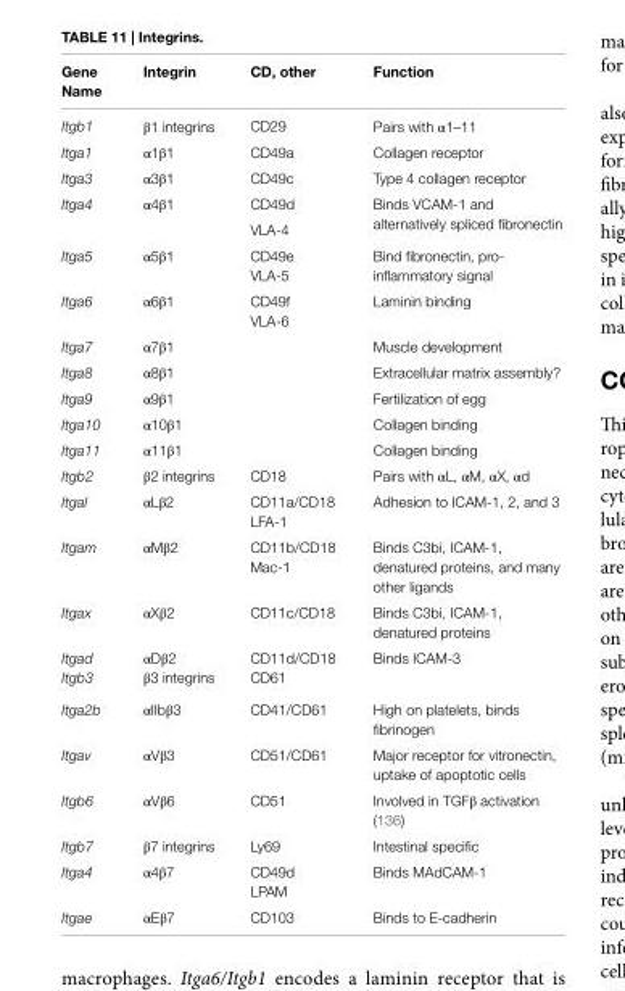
<table><thead><tr><td>Gene Name</td><td>integrin</td><td>CD, other</td><td>Function</td></tr></thead><tbody><tr><td>Itgb1</td><td>β1 integrins</td><td>CD29</td><td>Pairs with α1–11</td></tr><tr><td>Itga1</td><td>α1β1</td><td>CD49a</td><td>Collagen receptor</td></tr><tr><td>Itga3</td><td>α3β1</td><td>CD49c</td><td>Type 4 collagen receptor</td></tr><tr><td rowspan="2">Itga4</td><td rowspan="2">α4β1</td><td>CD49d</td><td rowspan="2">Binds VCAM-1 and alternatively spliced fibronectin</td></tr><tr><td>VLA-4</td></tr><tr><td rowspan="2">Itga5</td><td rowspan="2">α5β1</td><td>CD49e</td><td rowspan="2">Bind fibronectin, pro- inflammatory signal</td></tr><tr><td>VLA-5</td></tr><tr><td rowspan="2">Itga6</td><td rowspan="2">α6β1</td><td>CD49f</td><td rowspan="2">Laminin binding</td></tr><tr><td>VLA-6</td></tr><tr><td>Itga7</td><td>α7β1</td><td></td><td>Muscle development</td></tr><tr><td>Itga8</td><td>α8β1</td><td></td><td>Extracellular matrix assembly?</td></tr><tr><td>Itga9</td><td>α9β1</td><td></td><td>Fertilization of egg</td></tr><tr><td>Itga10</td><td>α10β1</td><td></td><td>Collagen binding</td></tr><tr><td>Itga11</td><td>α11β1</td><td></td><td>Collagen binding</td></tr><tr><td>Itgb2</td><td>β2 integrins</td><td>CD18</td><td>Pairs with αL, αM, αX, αd</td></tr><tr><td>Itgal</td><td>αLβ2</td><td>CD11a/CD18 LFA-1</td><td>Adhesion to ICAM-1, 2, and 3</td></tr><tr><td>Itgam</td><td>αMβ2</td><td>CD11b/CD18 Mac-1</td><td>Binds C3bi, ICAM-1, denatured proteins, and many other ligands</td></tr><tr><td>Itgax</td><td>αXβ2</td><td>CD11c/CD18</td><td>Binds C3bi, ICAM-1, denatured proteins</td></tr><tr><td>Itgad Itgb3</td><td>αDβ2 β3 integrins</td><td>CD11d/CD18 CD61</td><td>Binds ICAM-3</td></tr><tr><td>Itga2b</td><td>αIIbβ3</td><td>CD41/CD61</td><td>High on platelets, binds fibrinogen</td></tr><tr><td>Itgav</td><td>αVβ3</td><td>CD51/CD61</td><td>Major receptor for vitronectin, uptake of apoptotic cells</td></tr><tr><td>Itgb6</td><td>αVβ6</td><td>CD51</td><td>Involved in TGFβ activation (136)</td></tr><tr><td>Itgb7</td><td>β7 integrins</td><td>Ly69</td><td>Intestinal specific</td></tr><tr><td>Itga4</td><td>α4β7</td><td>CD49d LPAM</td><td>Binds MAdCAM-1</td></tr><tr><td>Itgae</td><td>αEβ7</td><td>CD103</td><td>Binds to E-cadherin</td></tr></tbody></table>